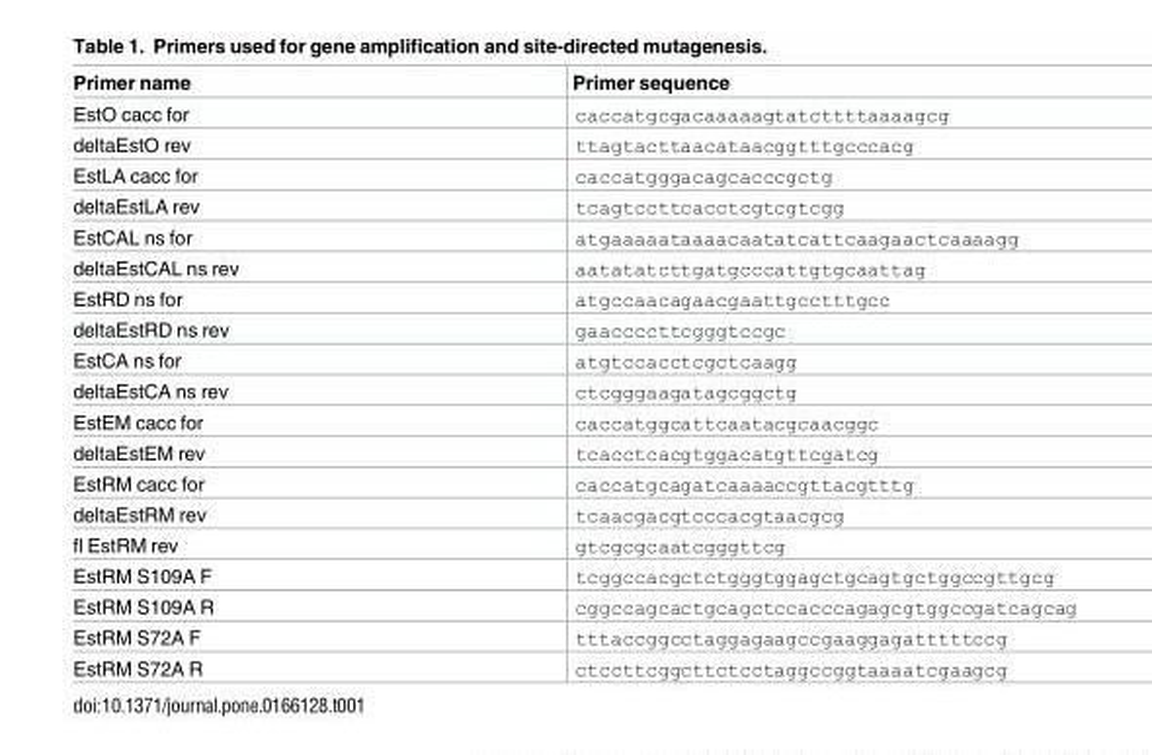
<table><thead><tr><td>Primer name</td><td>Primer sequence</td></tr></thead><tbody><tr><td>EstO cacc for</td><td>caccatgcgacaaaaagtatcttttaaaagcg</td></tr><tr><td>deltaEstO rev</td><td>ttagtacttaacataacggtttgcccacg</td></tr><tr><td>EstLA cacc for</td><td>caccatgggacagcacccgctg</td></tr><tr><td>deltaEstLA rev</td><td>tcagtccttcacctcgtcgtcgg</td></tr><tr><td>EstCAL ns for</td><td>atgaaaaataaaacaatatcattcaagaactcaaaagg</td></tr><tr><td>deltaEstCAL ns rev</td><td>aatatatcttgatgcccattgtgcaattag</td></tr><tr><td>EstRD ns for</td><td>atgccaacagaacgaattgcctttgcc</td></tr><tr><td>deltaEstRD ns rev</td><td>gaaccccttcgggtccgc</td></tr><tr><td>EstCA ns for</td><td>atgtccacctcgctcaagg</td></tr><tr><td>deltaEstCA ns rev</td><td>ctcgggaagatagcggctg</td></tr><tr><td>EstEM cacc for</td><td>caccatggcattcaatacgcaacggc</td></tr><tr><td>deltaEstEM rev</td><td>tcacctcacgtggacatgttcgatcg</td></tr><tr><td>EstRM cacc for</td><td>caccatgcagatcaaaaccgttacgtttg</td></tr><tr><td>deltaEstRM rev</td><td>tcaacgacgtcccacgtaacgcg</td></tr><tr><td>fl EstRM rev</td><td>gtcgcgcaatcgggttcg</td></tr><tr><td>EstRM S109A F</td><td>tcggccacgctctgggtggagctgcagtgctggccgttgcg</td></tr><tr><td>EstRM S109A R</td><td>cggccagcactgcagctccacccagagcgtggccgatcagcag</td></tr><tr><td>EstRM S72A F</td><td>tttaccggcctaggagaagccgaaggagatttttccg</td></tr><tr><td>EstRM S72A R</td><td>ctccttcggcttctcctaggccggtaaaatcgaagcg</td></tr></tbody></table>